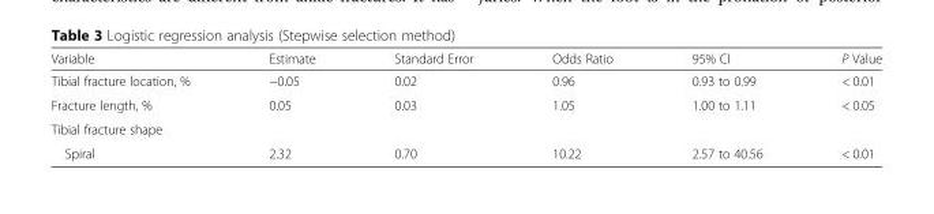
<table><thead><tr><td>Variable</td><td>Estimate</td><td>Standard Error</td><td>Odds Ratio</td><td>95% CI</td><td>P Value</td></tr></thead><tbody><tr><td>Tibial fracture location, %</td><td>−0.05</td><td>0.02</td><td>0.96</td><td>0.93 to 0.99</td><td>&lt; 0.01</td></tr><tr><td>Fracture length, %</td><td>0.05</td><td>0.03</td><td>1.05</td><td>1.00 to 1.11</td><td>&lt; 0.05</td></tr><tr><td colspan="6">Tibial fracture shape</td></tr><tr><td>Spiral</td><td>2.32</td><td>0.70</td><td>10.22</td><td>2.57 to 40.56</td><td>&lt; 0.01</td></tr></tbody></table>